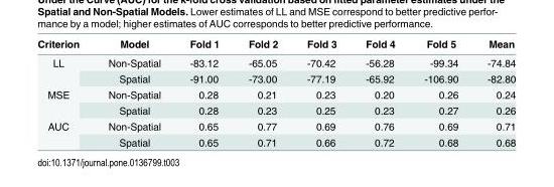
<table><thead><tr><td>Criterion</td><td>Model</td><td>Fold 1</td><td>Fold 2</td><td>Fold 3</td><td>Fold 4</td><td>Fold 5</td><td>Mean</td></tr></thead><tbody><tr><td rowspan="2">LL</td><td>Non-Spatial</td><td>-83.12</td><td>-65.05</td><td>-70.42</td><td>-56.28</td><td>-99.34</td><td>-74.84</td></tr><tr><td>Spatial</td><td>-91.00</td><td>-73.00</td><td>-77.19</td><td>-65.92</td><td>-106.90</td><td>-82.80</td></tr><tr><td rowspan="2">MSE</td><td>Non-Spatial</td><td>0.28</td><td>0.21</td><td>0.23</td><td>0.20</td><td>0.26</td><td>0.24</td></tr><tr><td>Spatial</td><td>0.28</td><td>0.23</td><td>0.25</td><td>0.23</td><td>0.27</td><td>0.26</td></tr><tr><td rowspan="2">AUC</td><td>Non-Spatial</td><td>0.65</td><td>0.77</td><td>0.69</td><td>0.76</td><td>0.69</td><td>0.71</td></tr><tr><td>Spatial</td><td>0.65</td><td>0.71</td><td>0.66</td><td>0.72</td><td>0.68</td><td>0.68</td></tr></tbody></table>